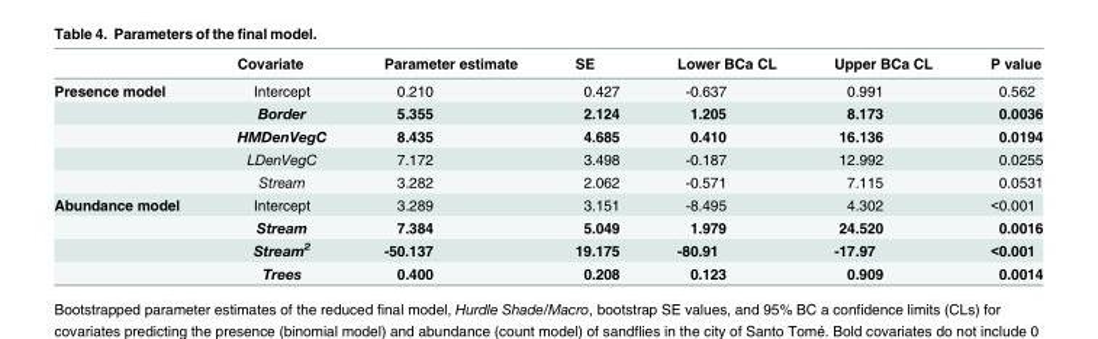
<table><thead><tr><td></td><td>Covariate</td><td>Parameter estimate</td><td>SE</td><td>Lower BCa CL</td><td>Upper BCa CL</td><td>P value</td></tr></thead><tbody><tr><td rowspan="5">Presence model</td><td>Intercept</td><td>0.210</td><td>0.427</td><td>-0.637</td><td>0.991</td><td>0.562</td></tr><tr><td>Border</td><td>5.355</td><td>2.124</td><td>1.205</td><td>8.173</td><td>0.0036</td></tr><tr><td>HMDenVegC</td><td>8.435</td><td>4.685</td><td>0.410</td><td>16.136</td><td>0.0194</td></tr><tr><td>LDenVegC</td><td>7.172</td><td>3.498</td><td>-0.187</td><td>12.992</td><td>0.0255</td></tr><tr><td>Stream</td><td>3.282</td><td>2.062</td><td>-0.571</td><td>7.115</td><td>0.0531</td></tr><tr><td rowspan="4">Abundance model</td><td>Intercept</td><td>3.289</td><td>3.151</td><td>-8.495</td><td>4.302</td><td>&lt;0.001</td></tr><tr><td>Stream</td><td>7.384</td><td>5.049</td><td>1.979</td><td>24.520</td><td>0.0016</td></tr><tr><td>Stream<sup>2</sup></td><td>-50.137</td><td>19.175</td><td>-80.91</td><td>-17.97</td><td>&lt;0.001</td></tr><tr><td>Trees</td><td>0.400</td><td>0.208</td><td>0.123</td><td>0.909</td><td>0.0014</td></tr></tbody></table>